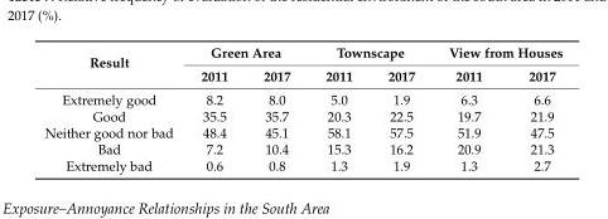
<table><thead><tr><td rowspan="2">Result</td><td colspan="2">Green Area</td><td colspan="2">Townscape</td><td colspan="2">View from Houses</td></tr><tr><td>2011</td><td>2017</td><td>2011</td><td>2017</td><td>2011</td><td>2017</td></tr></thead><tbody><tr><td>Extremely good</td><td>8.2</td><td>8.0</td><td>5.0</td><td>1.9</td><td>6.3</td><td>6.6</td></tr><tr><td>Good</td><td>35.5</td><td>35.7</td><td>20.3</td><td>22.5</td><td>19.7</td><td>21.9</td></tr><tr><td>Neither good nor bad</td><td>48.4</td><td>45.1</td><td>58.1</td><td>57.5</td><td>51.9</td><td>47.5</td></tr><tr><td>Bad</td><td>7.2</td><td>10.4</td><td>15.3</td><td>16.2</td><td>20.9</td><td>21.3</td></tr><tr><td>Extremely bad</td><td>0.6</td><td>0.8</td><td>1.3</td><td>1.9</td><td>1.3</td><td>2.7</td></tr></tbody></table>